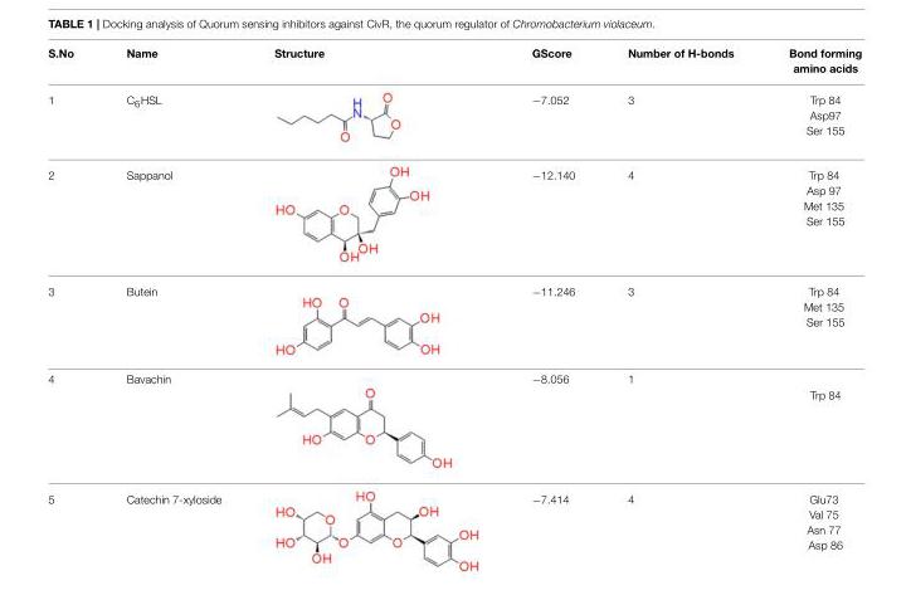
<table><thead><tr><td>S.No</td><td>Name</td><td>Structure</td><td>GScore</td><td>Number of H-bonds</td><td>Bond forming amino acids</td></tr></thead><tbody><tr><td>1</td><td>C<sub>6</sub>HSL</td><td></td><td>−7.052</td><td>3</td><td>Trp 84 Asp97 Ser 155</td></tr><tr><td>2</td><td>Sappanol</td><td></td><td>−12.140</td><td>4</td><td>Trp 84 Asp 97 Met 135 Ser 155</td></tr><tr><td>3</td><td>Butein</td><td></td><td>−11.246</td><td>3</td><td>Trp 84 Met 135 Ser 155</td></tr><tr><td>4</td><td>Bavachin</td><td></td><td>−8.056</td><td>1</td><td>Trp 84</td></tr><tr><td>5</td><td>Catechin 7-xyloside</td><td></td><td>−7.414</td><td>4</td><td>Glu73 Val 75 Asn 77 Asp 86</td></tr></tbody></table>